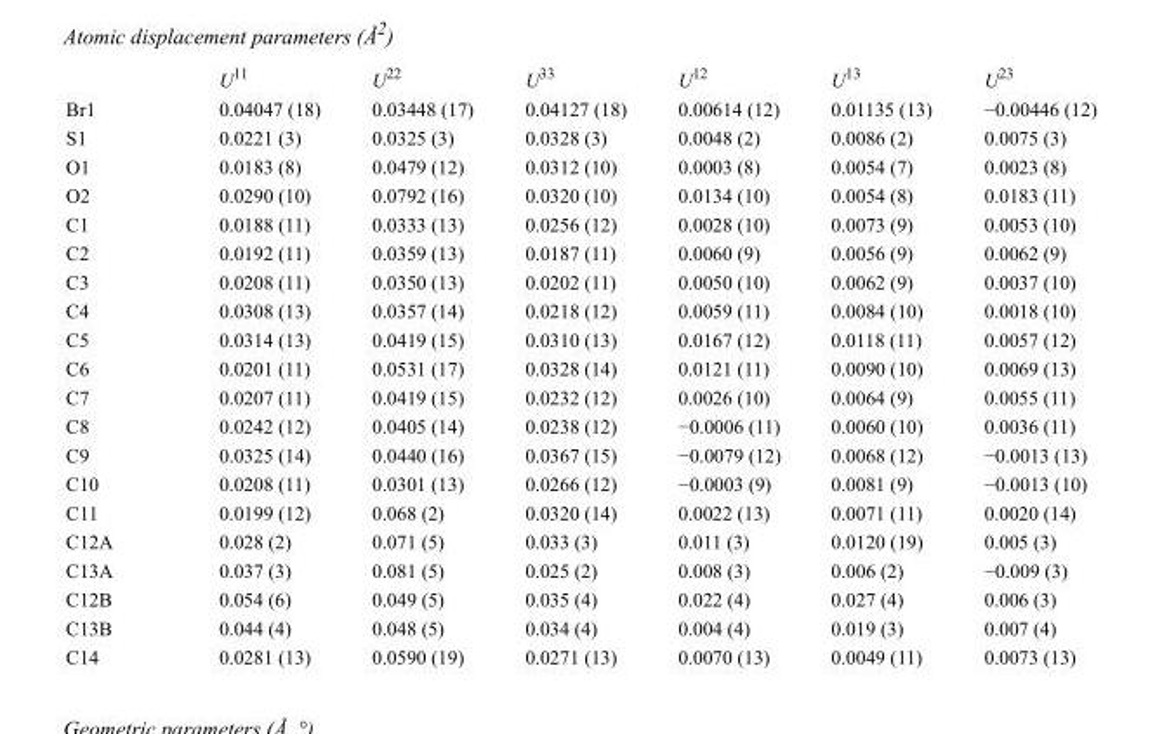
<table><thead><tr><td></td><td>U<sup>11</sup></td><td>U<sup>22</sup></td><td>U<sup>33</sup></td><td>U<sup>12</sup></td><td>U<sup>13</sup></td><td>U<sup>23</sup></td></tr></thead><tbody><tr><td>Br1</td><td>0.04047 (18)</td><td>0.03448 (17)</td><td>0.04127 (18)</td><td>0.00614 (12)</td><td>0.01135 (13)</td><td>−0.00446 (12)</td></tr><tr><td>S1</td><td>0.0221 (3)</td><td>0.0325 (3)</td><td>0.0328 (3)</td><td>0.0048 (2)</td><td>0.0086 (2)</td><td>0.0075 (3)</td></tr><tr><td>O1</td><td>0.0183 (8)</td><td>0.0479 (12)</td><td>0.0312 (10)</td><td>0.0003 (8)</td><td>0.0054 (7)</td><td>0.0023 (8)</td></tr><tr><td>O2</td><td>0.0290 (10)</td><td>0.0792 (16)</td><td>0.0320 (10)</td><td>0.0134 (10)</td><td>0.0054 (8)</td><td>0.0183 (11)</td></tr><tr><td>C1</td><td>0.0188 (11)</td><td>0.0333 (13)</td><td>0.0256 (12)</td><td>0.0028 (10)</td><td>0.0073 (9)</td><td>0.0053 (10)</td></tr><tr><td>C2</td><td>0.0192 (11)</td><td>0.0359 (13)</td><td>0.0187 (11)</td><td>0.0060 (9)</td><td>0.0056 (9)</td><td>0.0062 (9)</td></tr><tr><td>C3</td><td>0.0208 (11)</td><td>0.0350 (13)</td><td>0.0202 (11)</td><td>0.0050 (10)</td><td>0.0062 (9)</td><td>0.0037 (10)</td></tr><tr><td>C4</td><td>0.0308 (13)</td><td>0.0357 (14)</td><td>0.0218 (12)</td><td>0.0059 (11)</td><td>0.0084 (10)</td><td>0.0018 (10)</td></tr><tr><td>C5</td><td>0.0314 (13)</td><td>0.0419 (15)</td><td>0.0310 (13)</td><td>0.0167 (12)</td><td>0.0118 (11)</td><td>0.0057 (12)</td></tr><tr><td>C6</td><td>0.0201 (11)</td><td>0.0531 (17)</td><td>0.0328 (14)</td><td>0.0121 (11)</td><td>0.0090 (10)</td><td>0.0069 (13)</td></tr><tr><td>C7</td><td>0.0207 (11)</td><td>0.0419 (15)</td><td>0.0232 (12)</td><td>0.0026 (10)</td><td>0.0064 (9)</td><td>0.0055 (11)</td></tr><tr><td>C8</td><td>0.0242 (12)</td><td>0.0405 (14)</td><td>0.0238 (12)</td><td>−0.0006 (11)</td><td>0.0060 (10)</td><td>0.0036 (11)</td></tr><tr><td>C9</td><td>0.0325 (14)</td><td>0.0440 (16)</td><td>0.0367 (15)</td><td>−0.0079 (12)</td><td>0.0068 (12)</td><td>−0.0013 (13)</td></tr><tr><td>C10</td><td>0.0208 (11)</td><td>0.0301 (13)</td><td>0.0266 (12)</td><td>−0.0003 (9)</td><td>0.0081 (9)</td><td>−0.0013 (10)</td></tr><tr><td>C11</td><td>0.0199 (12)</td><td>0.068 (2)</td><td>0.0320 (14)</td><td>0.0022 (13)</td><td>0.0071 (11)</td><td>0.0020 (14)</td></tr><tr><td>C12A</td><td>0.028 (2)</td><td>0.071 (5)</td><td>0.033 (3)</td><td>0.011 (3)</td><td>0.0120 (19)</td><td>0.005 (3)</td></tr><tr><td>C13A</td><td>0.037 (3)</td><td>0.081 (5)</td><td>0.025 (2)</td><td>0.008 (3)</td><td>0.006 (2)</td><td>−0.009 (3)</td></tr><tr><td>C12B</td><td>0.054 (6)</td><td>0.049 (5)</td><td>0.035 (4)</td><td>0.022 (4)</td><td>0.027 (4)</td><td>0.006 (3)</td></tr><tr><td>C13B</td><td>0.044 (4)</td><td>0.048 (5)</td><td>0.034 (4)</td><td>0.004 (4)</td><td>0.019 (3)</td><td>0.007 (4)</td></tr><tr><td>C14</td><td>0.0281 (13)</td><td>0.0590 (19)</td><td>0.0271 (13)</td><td>0.0070 (13)</td><td>0.0049 (11)</td><td>0.0073 (13)</td></tr></tbody></table>